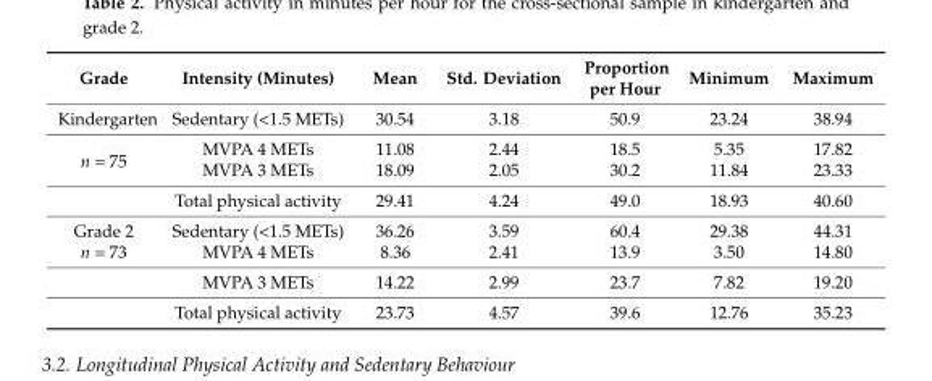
<table><thead><tr><td>Grade</td><td>Intensity (Minutes)</td><td>Mean</td><td>Std. Deviation</td><td>Proportion per Hour</td><td>Minimum</td><td>Maximum</td></tr></thead><tbody><tr><td>Kindergarten</td><td>Sedentary (&lt;1.5 METs)</td><td>30.54</td><td>3.18</td><td>50.9</td><td>23.24</td><td>38.94</td></tr><tr><td rowspan="3">n = 75</td><td>MVPA 4 METs</td><td>11.08</td><td>2.44</td><td>18.5</td><td>5.35</td><td>17.82</td></tr><tr><td>MVPA 3 METs</td><td>18.09</td><td>2.05</td><td>30.2</td><td>11.84</td><td>23.33</td></tr><tr><td>Total physical activity</td><td>29.41</td><td>4.24</td><td>49.0</td><td>18.93</td><td>40.60</td></tr><tr><td>Grade 2</td><td>Sedentary (&lt;1.5 METs)</td><td>36.26</td><td>3.59</td><td>60.4</td><td>29.38</td><td>44.31</td></tr><tr><td rowspan="3">n = 73</td><td>MVPA 4 METs</td><td>8.36</td><td>2.41</td><td>13.9</td><td>3.50</td><td>14.80</td></tr><tr><td>MVPA 3 METs</td><td>14.22</td><td>2.99</td><td>23.7</td><td>7.82</td><td>19.20</td></tr><tr><td>Total physical activity</td><td>23.73</td><td>4.57</td><td>39.6</td><td>12.76</td><td>35.23</td></tr></tbody></table>